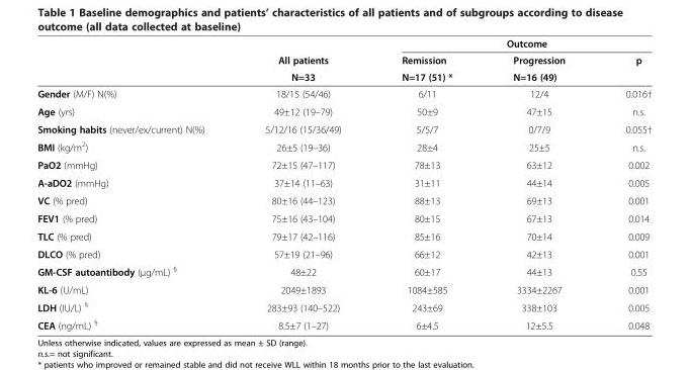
<table><thead><tr><td rowspan="3"></td><td rowspan="3">All patients N=33</td><td colspan="3">Outcome</td></tr><tr><td rowspan="2">Remission N=17 (51) *</td><td rowspan="2">Progression N=16 (49)</td><td rowspan="2">p</td></tr><tr></tr></thead><tbody><tr><td>Gender (M/F) N(%)</td><td>18/15 (54/46)</td><td>6/11</td><td>12/4</td><td>0.016†</td></tr><tr><td>Age (yrs)</td><td>49±12 (19–79)</td><td>50±9</td><td>47±15</td><td>n.s.</td></tr><tr><td>Smoking habits (never/ex/current) N(%)</td><td>5/12/16 (15/36/49)</td><td>5/5/7</td><td>0/7/9</td><td>0.055†</td></tr><tr><td>BMI (kg/m<sup>2</sup>)</td><td>26±5 (19–36)</td><td>28±4</td><td>25±5</td><td>n.s.</td></tr><tr><td>PaO2 (mmHg)</td><td>72±15 (47–117)</td><td>78±13</td><td>63±12</td><td>0.002</td></tr><tr><td>A-aDO2 (mmHg)</td><td>37±14 (11–63)</td><td>31±11</td><td>44±14</td><td>0.005</td></tr><tr><td>VC (% pred)</td><td>80±16 (44–123)</td><td>88±13</td><td>69±13</td><td>0.001</td></tr><tr><td>FEV1 (% pred)</td><td>75±16 (43–104)</td><td>80±15</td><td>67±13</td><td>0.014</td></tr><tr><td>TLC (% pred)</td><td>79±17 (42–116)</td><td>85±16</td><td>70±14</td><td>0.009</td></tr><tr><td>DLCO (% pred)</td><td>57±19 (21–96)</td><td>66±12</td><td>42±13</td><td>0.001</td></tr><tr><td>GM-CSF autoantibody (μg/mL) <sup>§</sup></td><td>48±22</td><td>60±17</td><td>44±13</td><td>0.55</td></tr><tr><td>KL-6 (U/mL)</td><td>2049±1893</td><td>1084±585</td><td>3334±2267</td><td>0.001</td></tr><tr><td>LDH (IU/L) <sup>§</sup></td><td>283±93 (140–522)</td><td>243±69</td><td>338±103</td><td>0.005</td></tr><tr><td>CEA (ng/mL) <sup>§</sup></td><td>8.5±7 (1–27)</td><td>6±4.5</td><td>12±5.5</td><td>0.048</td></tr></tbody></table>